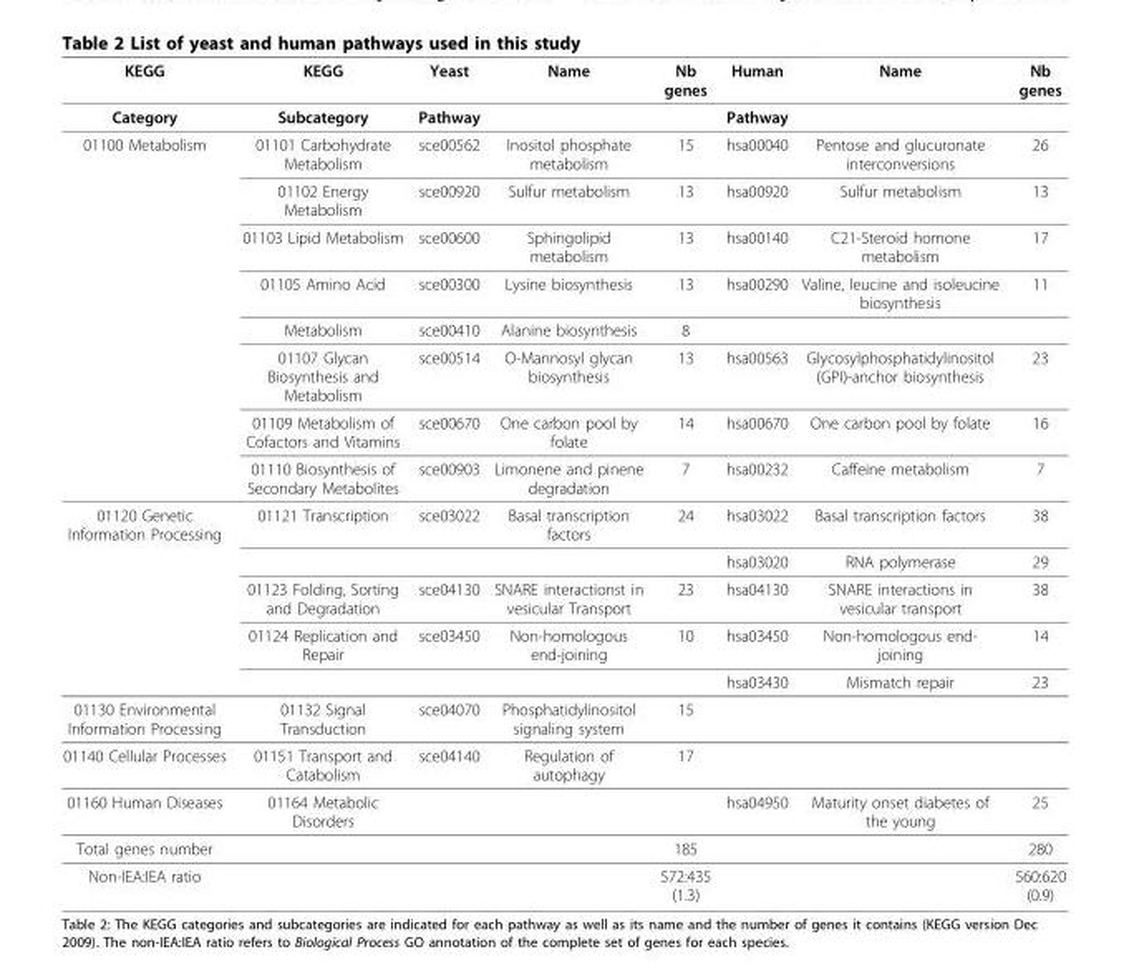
<table><thead><tr><td>KEGG</td><td>KEGG</td><td>Yeast</td><td>Name</td><td>Nb genes</td><td>Human</td><td>Name</td><td>Nb genes</td></tr></thead><tbody><tr><td>Category</td><td>Subcategory</td><td>Pathway</td><td></td><td></td><td>Pathway</td><td></td><td></td></tr><tr><td rowspan="8">01100 Metabolism</td><td>01101 Carbohydrate Metabolism</td><td>sce00562</td><td>Inositol phosphate metabolism</td><td>15</td><td>hsa00040</td><td>Pentose and glucuronate interconversions</td><td>26</td></tr><tr><td>01102 Energy Metabolism</td><td>sce00920</td><td>Sulfur metabolism</td><td>13</td><td>hsa00920</td><td>Sulfur metabolism</td><td>13</td></tr><tr><td>01103 Lipid Metabolism</td><td>sce00600</td><td>Sphingolipid metabolism</td><td>13</td><td>hsa00140</td><td>C21-Steroid homone metabolism</td><td>17</td></tr><tr><td>01105 Amino Acid</td><td>sce00300</td><td>Lysine biosynthesis</td><td>13</td><td>hsa00290</td><td>Valine, leucine and isoleucine biosynthesis</td><td>11</td></tr><tr><td>Metabolism</td><td>sce00410</td><td>Alanine biosynthesis</td><td>8</td><td></td><td></td><td></td></tr><tr><td>01107 Glycan Biosynthesis and Metabolism</td><td>sce00514</td><td>O-Mannosyl glycan biosynthesis</td><td>13</td><td>hsa00563</td><td>Glycosylphosphatidylinositol (GPI)-anchor biosynthesis</td><td>23</td></tr><tr><td>01109 Metabolism of Cofactors and Vitamins</td><td>sce00670</td><td>One carbon pool by folate</td><td>14</td><td>hsa00670</td><td>One carbon pool by folate</td><td>16</td></tr><tr><td>01110 Biosynthesis of Secondary Metabolites</td><td>sce00903</td><td>Limonene and pinene degradation</td><td>7</td><td>hsa00232</td><td>Caffeine metabolism</td><td>7</td></tr><tr><td rowspan="5">01120 Genetic Information Processing</td><td>01121 Transcription</td><td>sce03022</td><td>Basal transcription factors</td><td>24</td><td>hsa03022</td><td>Basal transcription factors</td><td>38</td></tr><tr><td></td><td></td><td></td><td></td><td>hsa03020</td><td>RNA polymerase</td><td>29</td></tr><tr><td>01123 Folding, Sorting and Degradation</td><td>sce04130</td><td>SNARE interactionst in vesicular Transport</td><td>23</td><td>hsa04130</td><td>SNARE interactions in vesicular transport</td><td>38</td></tr><tr><td>01124 Replication and Repair</td><td>sce03450</td><td>Non-homologous end-joining</td><td>10</td><td>hsa03450</td><td>Non-homologous end- joining</td><td>14</td></tr><tr><td></td><td></td><td></td><td></td><td>hsa03430</td><td>Mismatch repair</td><td>23</td></tr><tr><td>01130 Environmental Information Processing</td><td>01132 Signal Transduction</td><td>sce04070</td><td>Phosphatidylinositol signaling system</td><td>15</td><td></td><td></td><td></td></tr><tr><td>01140 Cellular Processes</td><td>01151 Transport and Catabolism</td><td>sce04140</td><td>Regulation of autophagy</td><td>17</td><td></td><td></td><td></td></tr><tr><td>01160 Human Diseases</td><td>01164 Metabolic Disorders</td><td></td><td></td><td></td><td>hsa04950</td><td>Maturity onset diabetes of the young</td><td>25</td></tr><tr><td>Total genes number</td><td></td><td></td><td></td><td>185</td><td></td><td></td><td>280</td></tr><tr><td>Non-IEA:IEA ratio</td><td></td><td></td><td></td><td>572:435 (1.3)</td><td></td><td></td><td>560:620 (0.9)</td></tr></tbody></table>